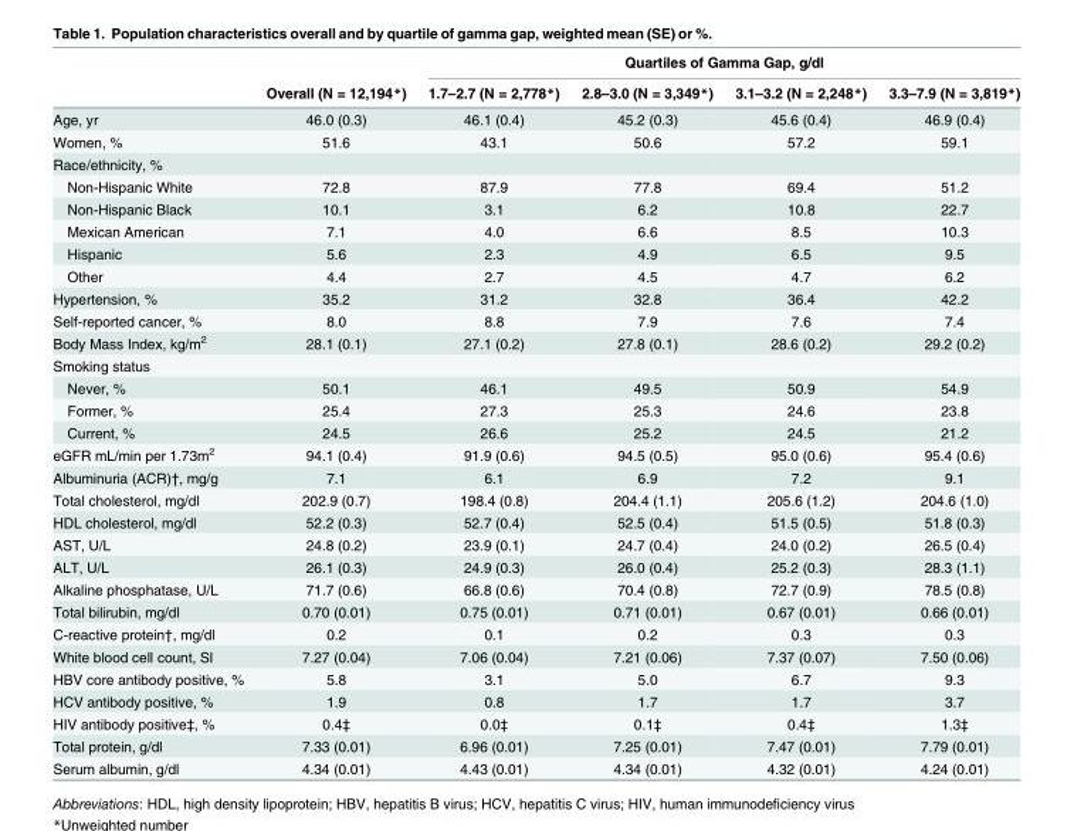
<table><thead><tr><td rowspan="2"></td><td rowspan="2">Overall (N = 12,194*)</td><td colspan="4">Quartiles of Gamma Gap, g/dl</td></tr><tr><td>1.7–2.7 (N = 2,778*)</td><td>2.8–3.0 (N = 3,349*)</td><td>3.1–3.2 (N = 2,248*)</td><td>3.3–7.9 (N = 3,819*)</td></tr></thead><tbody><tr><td>Age, yr</td><td>46.0 (0.3)</td><td>46.1 (0.4)</td><td>45.2 (0.3)</td><td>45.6 (0.4)</td><td>46.9 (0.4)</td></tr><tr><td>Women, %</td><td>51.6</td><td>43.1</td><td>50.6</td><td>57.2</td><td>59.1</td></tr><tr><td colspan="6">Race/ethnicity, %</td></tr><tr><td>Non-Hispanic White</td><td>72.8</td><td>87.9</td><td>77.8</td><td>69.4</td><td>51.2</td></tr><tr><td>Non-Hispanic Black</td><td>10.1</td><td>3.1</td><td>6.2</td><td>10.8</td><td>22.7</td></tr><tr><td>Mexican American</td><td>7.1</td><td>4.0</td><td>6.6</td><td>8.5</td><td>10.3</td></tr><tr><td>Hispanic</td><td>5.6</td><td>2.3</td><td>4.9</td><td>6.5</td><td>9.5</td></tr><tr><td>Other</td><td>4.4</td><td>2.7</td><td>4.5</td><td>4.7</td><td>6.2</td></tr><tr><td>Hypertension, %</td><td>35.2</td><td>31.2</td><td>32.8</td><td>36.4</td><td>42.2</td></tr><tr><td>Self-reported cancer, %</td><td>8.0</td><td>8.8</td><td>7.9</td><td>7.6</td><td>7.4</td></tr><tr><td>Body Mass Index, kg/m<sup>2</sup></td><td>28.1 (0.1)</td><td>27.1 (0.2)</td><td>27.8 (0.1)</td><td>28.6 (0.2)</td><td>29.2 (0.2)</td></tr><tr><td colspan="6">Smoking status</td></tr><tr><td>Never, %</td><td>50.1</td><td>46.1</td><td>49.5</td><td>50.9</td><td>54.9</td></tr><tr><td>Former, %</td><td>25.4</td><td>27.3</td><td>25.3</td><td>24.6</td><td>23.8</td></tr><tr><td>Current, %</td><td>24.5</td><td>26.6</td><td>25.2</td><td>24.5</td><td>21.2</td></tr><tr><td>eGFR mL/min per 1.73m<sup>2</sup></td><td>94.1 (0.4)</td><td>91.9 (0.6)</td><td>94.5 (0.5)</td><td>95.0 (0.6)</td><td>95.4 (0.6)</td></tr><tr><td>Albuminuria (ACR)†, mg/g</td><td>7.1</td><td>6.1</td><td>6.9</td><td>7.2</td><td>9.1</td></tr><tr><td>Total cholesterol, mg/dl</td><td>202.9 (0.7)</td><td>198.4 (0.8)</td><td>204.4 (1.1)</td><td>205.6 (1.2)</td><td>204.6 (1.0)</td></tr><tr><td>HDL cholesterol, mg/dl</td><td>52.2 (0.3)</td><td>52.7 (0.4)</td><td>52.5 (0.4)</td><td>51.5 (0.5)</td><td>51.8 (0.3)</td></tr><tr><td>AST, U/L</td><td>24.8 (0.2)</td><td>23.9 (0.1)</td><td>24.7 (0.4)</td><td>24.0 (0.2)</td><td>26.5 (0.4)</td></tr><tr><td>ALT, U/L</td><td>26.1 (0.3)</td><td>24.9 (0.3)</td><td>26.0 (0.4)</td><td>25.2 (0.3)</td><td>28.3 (1.1)</td></tr><tr><td>Alkaline phosphatase, U/L</td><td>71.7 (0.6)</td><td>66.8 (0.6)</td><td>70.4 (0.8)</td><td>72.7 (0.9)</td><td>78.5 (0.8)</td></tr><tr><td>Total bilirubin, mg/dl</td><td>0.70 (0.01)</td><td>0.75 (0.01)</td><td>0.71 (0.01)</td><td>0.67 (0.01)</td><td>0.66 (0.01)</td></tr><tr><td>C-reactive protein†, mg/dl</td><td>0.2</td><td>0.1</td><td>0.2</td><td>0.3</td><td>0.3</td></tr><tr><td>White blood cell count, SI</td><td>7.27 (0.04)</td><td>7.06 (0.04)</td><td>7.21 (0.06)</td><td>7.37 (0.07)</td><td>7.50 (0.06)</td></tr><tr><td>HBV core antibody positive, %</td><td>5.8</td><td>3.1</td><td>5.0</td><td>6.7</td><td>9.3</td></tr><tr><td>HCV antibody positive, %</td><td>1.9</td><td>0.8</td><td>1.7</td><td>1.7</td><td>3.7</td></tr><tr><td>HIV antibody positive‡, %</td><td>0.4‡</td><td>0.0‡</td><td>0.1‡</td><td>0.4‡</td><td>1.3‡</td></tr><tr><td>Total protein, g/dl</td><td>7.33 (0.01)</td><td>6.96 (0.01)</td><td>7.25 (0.01)</td><td>7.47 (0.01)</td><td>7.79 (0.01)</td></tr><tr><td>Serum albumin, g/dl</td><td>4.34 (0.01)</td><td>4.43 (0.01)</td><td>4.34 (0.01)</td><td>4.32 (0.01)</td><td>4.24 (0.01)</td></tr></tbody></table>